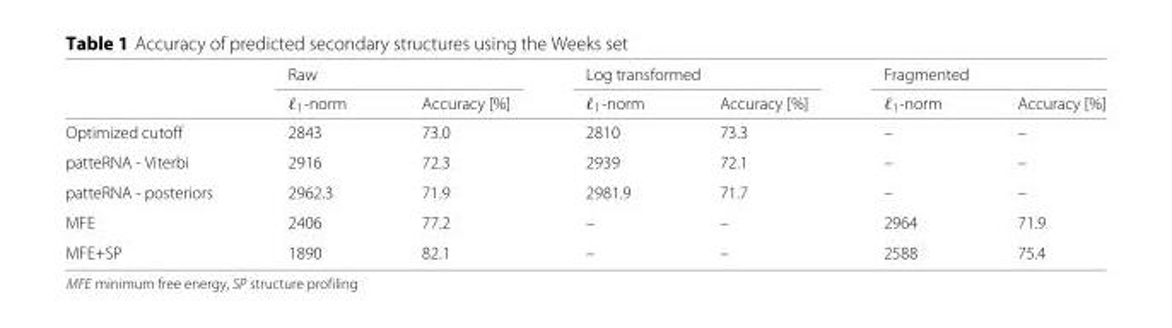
<table><thead><tr><td rowspan="2"></td><td colspan="2">Raw</td><td colspan="2">Log transformed</td><td colspan="2">Fragmented</td></tr><tr><td>ℓ<sub>1</sub>-norm</td><td>Accuracy [%]</td><td>ℓ<sub>1</sub>-norm</td><td>Accuracy [%]</td><td>ℓ<sub>1</sub>-norm</td><td>Accuracy [%]</td></tr></thead><tbody><tr><td>Optimized cutoff</td><td>2843</td><td>73.0</td><td>2810</td><td>73.3</td><td>–</td><td>–</td></tr><tr><td>patteRNA - Viterbi</td><td>2916</td><td>72.3</td><td>2939</td><td>72.1</td><td>–</td><td>–</td></tr><tr><td>patteRNA - posteriors</td><td>2962.3</td><td>71.9</td><td>2981.9</td><td>71.7</td><td>–</td><td>–</td></tr><tr><td>MFE</td><td>2406</td><td>77.2</td><td>–</td><td>–</td><td>2964</td><td>71.9</td></tr><tr><td>MFE+SP</td><td>1890</td><td>82.1</td><td>–</td><td>–</td><td>2588</td><td>75.4</td></tr></tbody></table>